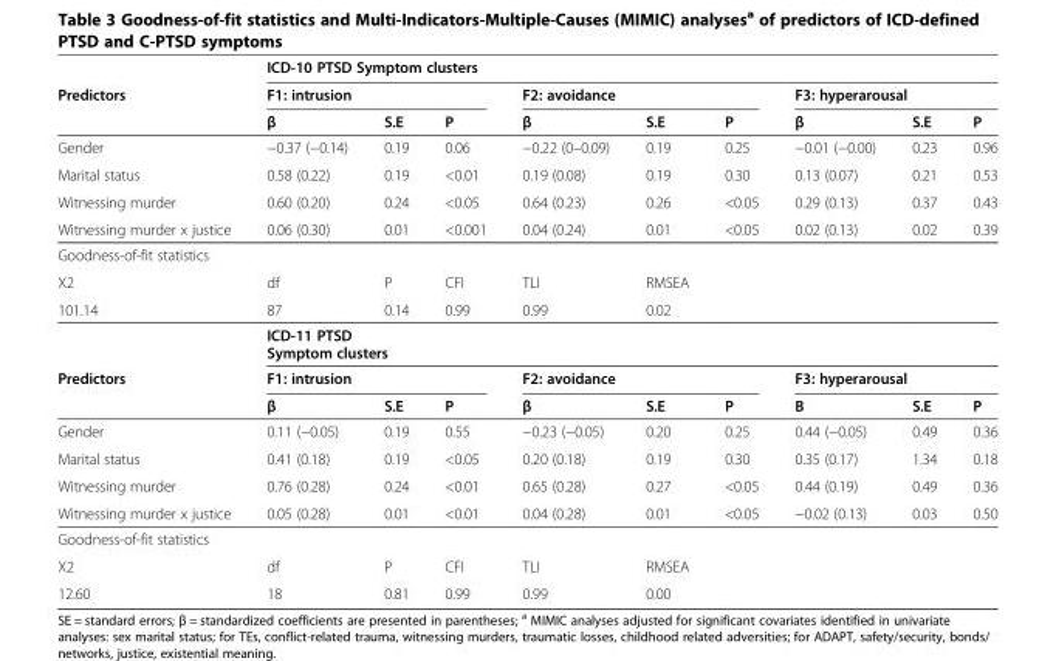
<table><thead><tr><td rowspan="3">Predictors</td><td colspan="9">ICD-10 PTSD Symptom clusters</td></tr><tr><td colspan="3">F1: intrusion</td><td colspan="3">F2: avoidance</td><td colspan="3">F3: hyperarousal</td></tr><tr><td>β</td><td>S.E</td><td>P</td><td>β</td><td>S.E</td><td>P</td><td>β</td><td>S.E</td><td>P</td></tr></thead><tbody><tr><td>Gender</td><td>−0.37 (−0.14)</td><td>0.19</td><td>0.06</td><td>−0.22 (0–0.09)</td><td>0.19</td><td>0.25</td><td>−0.01 (−0.00)</td><td>0.23</td><td>0.96</td></tr><tr><td>Marital status</td><td>0.58 (0.22)</td><td>0.19</td><td>&lt;0.01</td><td>0.19 (0.08)</td><td>0.19</td><td>0.30</td><td>0.13 (0.07)</td><td>0.21</td><td>0.53</td></tr><tr><td>Witnessing murder</td><td>0.60 (0.20)</td><td>0.24</td><td>&lt;0.05</td><td>0.64 (0.23)</td><td>0.26</td><td>&lt;0.05</td><td>0.29 (0.13)</td><td>0.37</td><td>0.43</td></tr><tr><td>Witnessing murder x justice</td><td>0.06 (0.30)</td><td>0.01</td><td>&lt;0.001</td><td>0.04 (0.24)</td><td>0.01</td><td>&lt;0.05</td><td>0.02 (0.13)</td><td>0.02</td><td>0.39</td></tr><tr><td colspan="10">Goodness-of-fit statistics</td></tr><tr><td>X2</td><td>df</td><td>P</td><td>CFI</td><td>TLI</td><td>RMSEA</td><td></td><td></td><td></td><td></td></tr><tr><td rowspan="2">101.14</td><td>87</td><td>0.14</td><td>0.99</td><td>0.99</td><td>0.02</td><td></td><td></td><td></td><td></td></tr><tr><td colspan="9">ICD-11 PTSD Symptom clusters</td></tr><tr><td rowspan="2">Predictors</td><td colspan="3">F1: intrusion</td><td colspan="3">F2: avoidance</td><td colspan="3">F3: hyperarousal</td></tr><tr><td>β</td><td>S.E</td><td>P</td><td>β</td><td>S.E</td><td>P</td><td>Β</td><td>S.E</td><td>P</td></tr><tr><td>Gender</td><td>0.11 (−0.05)</td><td>0.19</td><td>0.55</td><td>−0.23 (−0.05)</td><td>0.20</td><td>0.25</td><td>0.44 (−0.05)</td><td>0.49</td><td>0.36</td></tr><tr><td>Marital status</td><td>0.41 (0.18)</td><td>0.19</td><td>&lt;0.05</td><td>0.20 (0.18)</td><td>0.19</td><td>0.30</td><td>0.35 (0.17)</td><td>1.34</td><td>0.18</td></tr><tr><td>Witnessing murder</td><td>0.76 (0.28)</td><td>0.24</td><td>&lt;0.01</td><td>0.65 (0.28)</td><td>0.27</td><td>&lt;0.05</td><td>0.44 (0.19)</td><td>0.49</td><td>0.36</td></tr><tr><td>Witnessing murder x justice</td><td>0.05 (0.28)</td><td>0.01</td><td>&lt;0.01</td><td>0.04 (0.28)</td><td>0.01</td><td>&lt;0.05</td><td>−0.02 (0.13)</td><td>0.03</td><td>0.50</td></tr><tr><td colspan="10">Goodness-of-fit statistics</td></tr><tr><td>X2</td><td>df</td><td>P</td><td>CFI</td><td>TLI</td><td>RMSEA</td><td></td><td></td><td></td><td></td></tr><tr><td>12.60</td><td>18</td><td>0.81</td><td>0.99</td><td>0.99</td><td>0.00</td><td></td><td></td><td></td><td></td></tr></tbody></table>